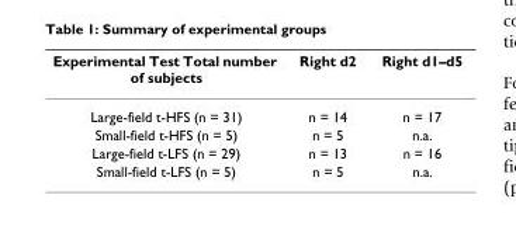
<table><thead><tr><td>Experimental Test Total number of subjects</td><td>Right d2</td><td>Right d1–d5</td></tr></thead><tbody><tr><td>Large-field t-HFS (n = 31)</td><td>n = 14</td><td>n = 17</td></tr><tr><td>Small-field t-HFS (n = 5)</td><td>n = 5</td><td>n.a.</td></tr><tr><td>Large-field t-LFS (n = 29)</td><td>n = 13</td><td>n = 16</td></tr><tr><td>Small-field t-LFS (n = 5)</td><td>n = 5</td><td>n.a.</td></tr></tbody></table>